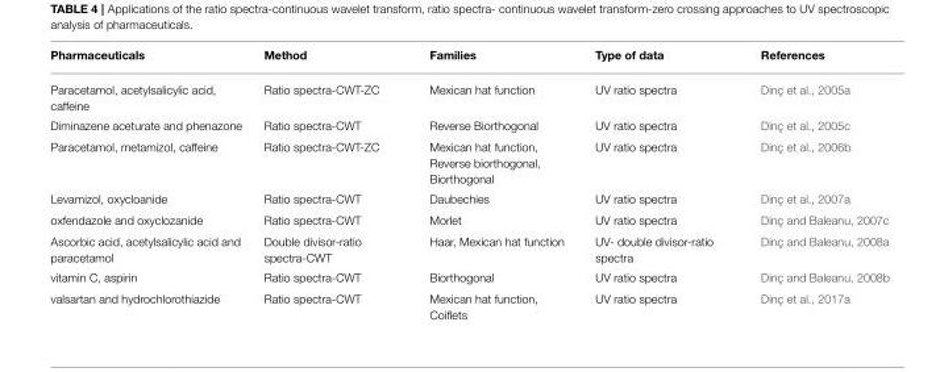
<table><thead><tr><td>Pharmaceuticals</td><td>Method</td><td>Families</td><td>Type of data</td><td>References</td></tr></thead><tbody><tr><td>Paracetamol, acetylsalicylic acid, caffeine</td><td>Ratio spectra-CWT-ZC</td><td>Mexican hat function</td><td>UV ratio spectra</td><td>Dinç et al., 2005a</td></tr><tr><td>Diminazene aceturate and phenazone</td><td>Ratio spectra-CWT</td><td>Reverse Biorthogonal</td><td>UV ratio spectra</td><td>Dinç et al., 2005c</td></tr><tr><td>Paracetamol, metamizol, caffeine</td><td>Ratio spectra-CWT-ZC</td><td>Mexican hat function, Reverse biorthogonal, Biorthogonal</td><td>UV ratio spectra</td><td>Dinç et al., 2006b</td></tr><tr><td>Levamizol, oxycloanide</td><td>Ratio spectra-CWT</td><td>Daubechies</td><td>UV ratio spectra</td><td>Dinç et al., 2007a</td></tr><tr><td>oxfendazole and oxyclozanide</td><td>Ratio spectra-CWT</td><td>Morlet</td><td>UV ratio spectra</td><td>Dinç and Baleanu, 2007c</td></tr><tr><td>Ascorbic acid, acetylsalicylic acid and paracetamol</td><td>Double divisor-ratio spectra-CWT</td><td>Haar, Mexican hat function</td><td>UV- double divisor-ratio spectra</td><td>Dinç and Baleanu, 2008a</td></tr><tr><td>vitamin C, aspirin</td><td>Ratio spectra-CWT</td><td>Biorthogonal</td><td>UV ratio spectra</td><td>Dinç and Baleanu, 2008b</td></tr><tr><td>valsartan and hydrochlorothiazide</td><td>Ratio spectra-CWT</td><td>Mexican hat function, Coiflets</td><td>UV ratio spectra</td><td>Dinç et al., 2017a</td></tr></tbody></table>